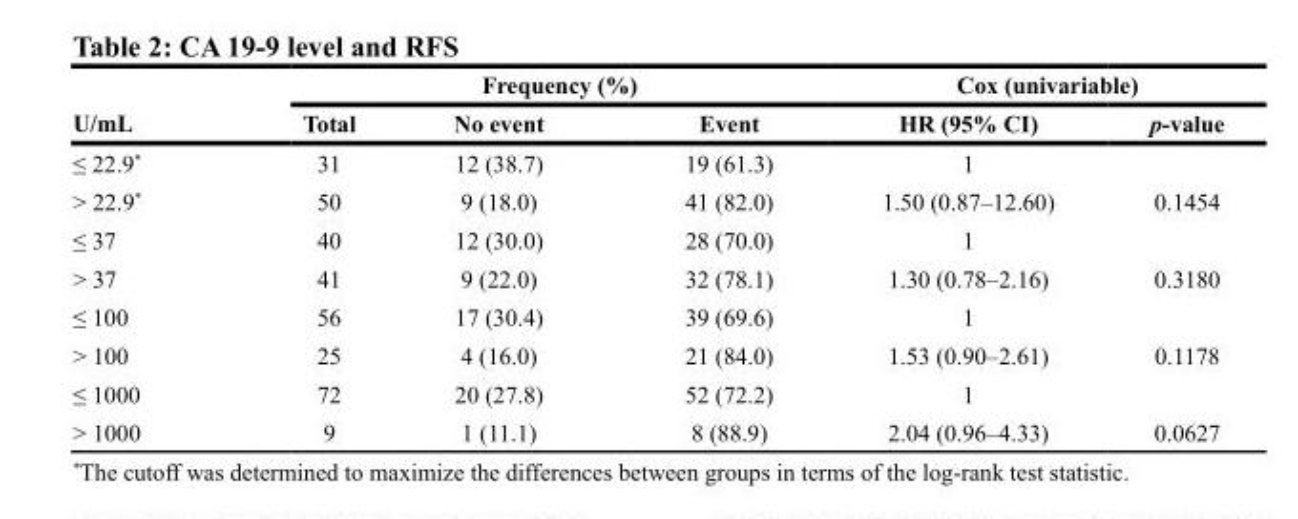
<table><thead><tr><td rowspan="2">U/mL</td><td colspan="3">Frequency (%)</td><td colspan="2">Cox (univariable)</td></tr><tr><td>Total</td><td>No event</td><td>Event</td><td>HR (95% CI)</td><td>p-value</td></tr></thead><tbody><tr><td>≤ 22.9*</td><td>31</td><td>12 (38.7)</td><td>19 (61.3)</td><td>1</td><td></td></tr><tr><td>&gt; 22.9*</td><td>50</td><td>9 (18.0)</td><td>41 (82.0)</td><td>1.50 (0.87–12.60)</td><td>0.1454</td></tr><tr><td>≤ 37</td><td>40</td><td>12 (30.0)</td><td>28 (70.0)</td><td>1</td><td></td></tr><tr><td>&gt; 37</td><td>41</td><td>9 (22.0)</td><td>32 (78.1)</td><td>1.30 (0.78–2.16)</td><td>0.3180</td></tr><tr><td>≤ 100</td><td>56</td><td>17 (30.4)</td><td>39 (69.6)</td><td>1</td><td></td></tr><tr><td>&gt; 100</td><td>25</td><td>4 (16.0)</td><td>21 (84.0)</td><td>1.53 (0.90–2.61)</td><td>0.1178</td></tr><tr><td>≤ 1000</td><td>72</td><td>20 (27.8)</td><td>52 (72.2)</td><td>1</td><td></td></tr><tr><td>&gt; 1000</td><td>9</td><td>1 (11.1)</td><td>8 (88.9)</td><td>2.04 (0.96–4.33)</td><td>0.0627</td></tr></tbody></table>